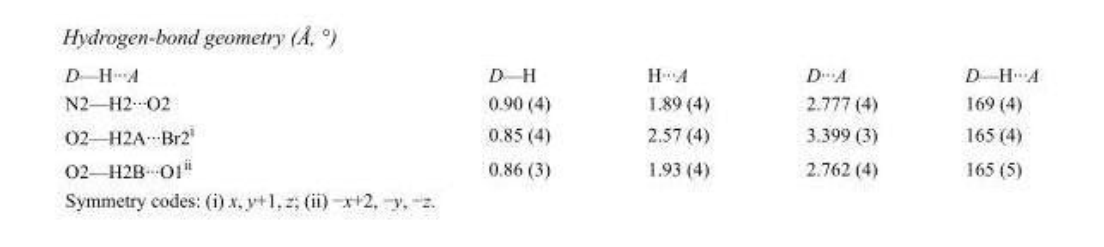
<table><tbody><tr><td>D—H···A</td><td>D—H</td><td>H···A</td><td>D···A</td><td>D—H···A</td></tr><tr><td>N2—H2···O2</td><td>0.90 (4)</td><td>1.89 (4)</td><td>2.777 (4)</td><td>169 (4)</td></tr><tr><td>O2—H2A···Br2<sup>i</sup></td><td>0.85 (4)</td><td>2.57 (4)</td><td>3.399 (3)</td><td>165 (4)</td></tr><tr><td>O2—H2B···O1<sup>ii</sup></td><td>0.86 (3)</td><td>1.93 (4)</td><td>2.762 (4)</td><td>165 (5)</td></tr></tbody></table>